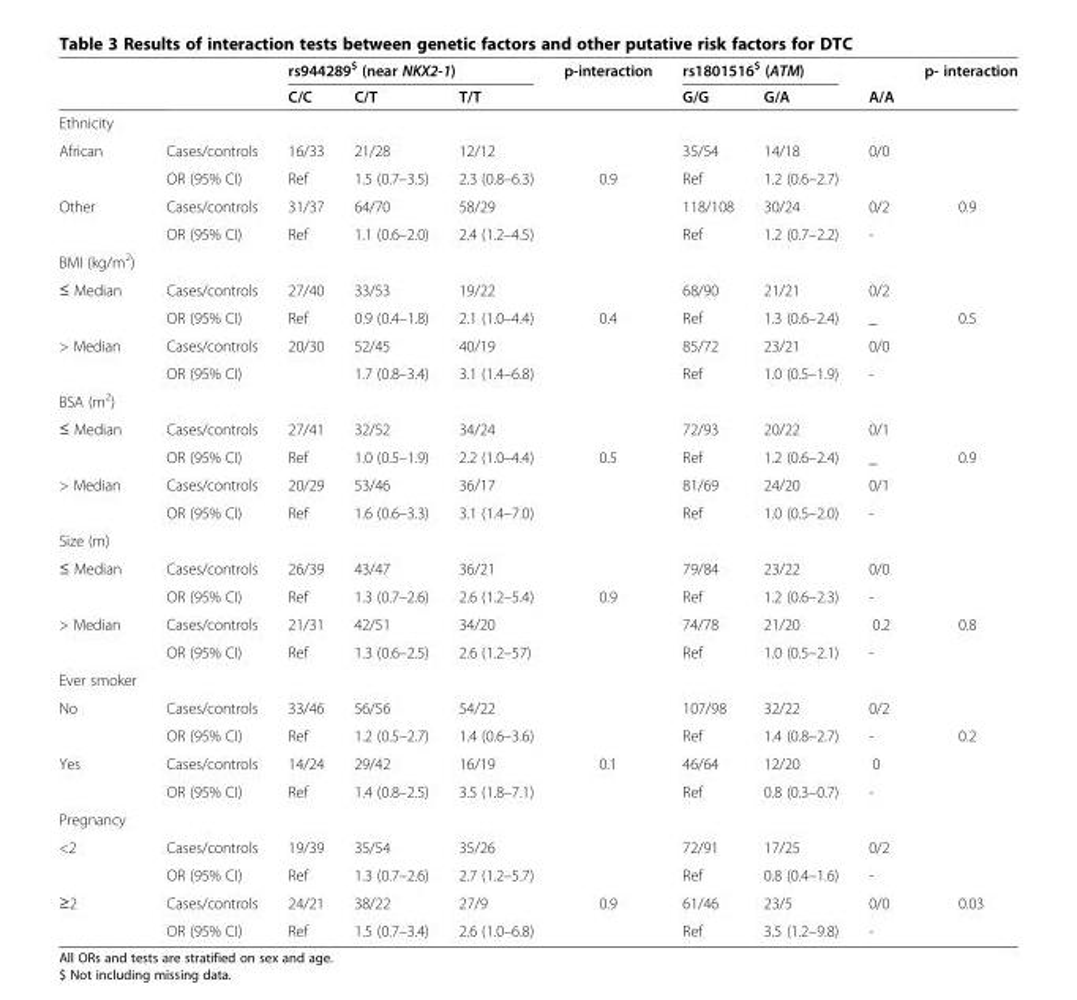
<table><thead><tr><td rowspan="2"></td><td rowspan="2"></td><td colspan="3">rs944289<sup>$</sup> (near NKX2-1)</td><td rowspan="2">p-interaction</td><td colspan="2">rs1801516<sup>$</sup> (ATM)</td><td rowspan="2">A/A</td><td rowspan="2">p- interaction</td></tr><tr><td>C/C</td><td>C/T</td><td>T/T</td><td>G/G</td><td>G/A</td></tr></thead><tbody><tr><td colspan="10">Ethnicity</td></tr><tr><td rowspan="2">African</td><td>Cases/controls</td><td>16/33</td><td>21/28</td><td>12/12</td><td></td><td>35/54</td><td>14/18</td><td>0/0</td><td></td></tr><tr><td>OR (95% CI)</td><td>Ref</td><td>1.5 (0.7–3.5)</td><td>2.3 (0.8–6.3)</td><td>0.9</td><td>Ref</td><td>1.2 (0.6–2.7)</td><td></td><td></td></tr><tr><td rowspan="2">Other</td><td>Cases/controls</td><td>31/37</td><td>64/70</td><td>58/29</td><td></td><td>118/108</td><td>30/24</td><td>0/2</td><td>0.9</td></tr><tr><td>OR (95% CI)</td><td>Ref</td><td>1.1 (0.6–2.0)</td><td>2.4 (1.2–4.5)</td><td></td><td>Ref</td><td>1.2 (0.7–2.2)</td><td>-</td><td></td></tr><tr><td colspan="10">BMI (kg/m<sup>2</sup>)</td></tr><tr><td rowspan="2">≤ Median</td><td>Cases/controls</td><td>27/40</td><td>33/53</td><td>19/22</td><td></td><td>68/90</td><td>21/21</td><td>0/2</td><td></td></tr><tr><td>OR (95% CI)</td><td>Ref</td><td>0.9 (0.4–1.8)</td><td>2.1 (1.0–4.4)</td><td>0.4</td><td>Ref</td><td>1.3 (0.6–2.4)</td><td>_</td><td>0.5</td></tr><tr><td rowspan="2">&gt; Median</td><td>Cases/controls</td><td>20/30</td><td>52/45</td><td>40/19</td><td></td><td>85/72</td><td>23/21</td><td>0/0</td><td></td></tr><tr><td>OR (95% CI)</td><td></td><td>1.7 (0.8–3.4)</td><td>3.1 (1.4–6.8)</td><td></td><td>Ref</td><td>1.0 (0.5–1.9)</td><td>-</td><td></td></tr><tr><td colspan="10">BSA (m<sup>2</sup>)</td></tr><tr><td rowspan="2">≤ Median</td><td>Cases/controls</td><td>27/41</td><td>32/52</td><td>34/24</td><td></td><td>72/93</td><td>20/22</td><td>0/1</td><td></td></tr><tr><td>OR (95% CI)</td><td>Ref</td><td>1.0 (0.5–1.9)</td><td>2.2 (1.0–4.4)</td><td>0.5</td><td>Ref</td><td>1.2 (0.6–2.4)</td><td>_</td><td>0.9</td></tr><tr><td rowspan="2">&gt; Median</td><td>Cases/controls</td><td>20/29</td><td>53/46</td><td>36/17</td><td></td><td>81/69</td><td>24/20</td><td>0/1</td><td></td></tr><tr><td>OR (95% CI)</td><td>Ref</td><td>1.6 (0.6–3.3)</td><td>3.1 (1.4–7.0)</td><td></td><td>Ref</td><td>1.0 (0.5–2.0)</td><td>-</td><td></td></tr><tr><td colspan="10">Size (m)</td></tr><tr><td rowspan="2">≤ Median</td><td>Cases/controls</td><td>26/39</td><td>43/47</td><td>36/21</td><td></td><td>79/84</td><td>23/22</td><td>0/0</td><td></td></tr><tr><td>OR (95% CI)</td><td>Ref</td><td>1.3 (0.7–2.6)</td><td>2.6 (1.2–5.4)</td><td>0.9</td><td>Ref</td><td>1.2 (0.6–2.3)</td><td>-</td><td></td></tr><tr><td rowspan="2">&gt; Median</td><td>Cases/controls</td><td>21/31</td><td>42/51</td><td>34/20</td><td></td><td>74/78</td><td>21/20</td><td>0.2</td><td>0.8</td></tr><tr><td>OR (95% CI)</td><td>Ref</td><td>1.3 (0.6–2.5)</td><td>2.6 (1.2–57)</td><td></td><td>Ref</td><td>1.0 (0.5–2.1)</td><td>-</td><td></td></tr><tr><td colspan="10">Ever smoker</td></tr><tr><td rowspan="2">No</td><td>Cases/controls</td><td>33/46</td><td>56/56</td><td>54/22</td><td></td><td>107/98</td><td>32/22</td><td>0/2</td><td></td></tr><tr><td>OR (95% CI)</td><td>Ref</td><td>1.2 (0.5–2.7)</td><td>1.4 (0.6–3.6)</td><td></td><td>Ref</td><td>1.4 (0.8–2.7)</td><td>-</td><td>0.2</td></tr><tr><td rowspan="2">Yes</td><td>Cases/controls</td><td>14/24</td><td>29/42</td><td>16/19</td><td>0.1</td><td>46/64</td><td>12/20</td><td>0</td><td></td></tr><tr><td>OR (95% CI)</td><td>Ref</td><td>1.4 (0.8–2.5)</td><td>3.5 (1.8–7.1)</td><td></td><td>Ref</td><td>0.8 (0.3–0.7)</td><td>-</td><td></td></tr><tr><td colspan="10">Pregnancy</td></tr><tr><td rowspan="2">&lt;2</td><td>Cases/controls</td><td>19/39</td><td>35/54</td><td>35/26</td><td></td><td>72/91</td><td>17/25</td><td>0/2</td><td></td></tr><tr><td>OR (95% CI)</td><td>Ref</td><td>1.3 (0.7–2.6)</td><td>2.7 (1.2–5.7)</td><td></td><td>Ref</td><td>0.8 (0.4–1.6)</td><td>-</td><td></td></tr><tr><td rowspan="2">≥2</td><td>Cases/controls</td><td>24/21</td><td>38/22</td><td>27/9</td><td>0.9</td><td>61/46</td><td>23/5</td><td>0/0</td><td>0.03</td></tr><tr><td>OR (95% CI)</td><td>Ref</td><td>1.5 (0.7–3.4)</td><td>2.6 (1.0–6.8)</td><td></td><td>Ref</td><td>3.5 (1.2–9.8)</td><td>-</td><td></td></tr></tbody></table>